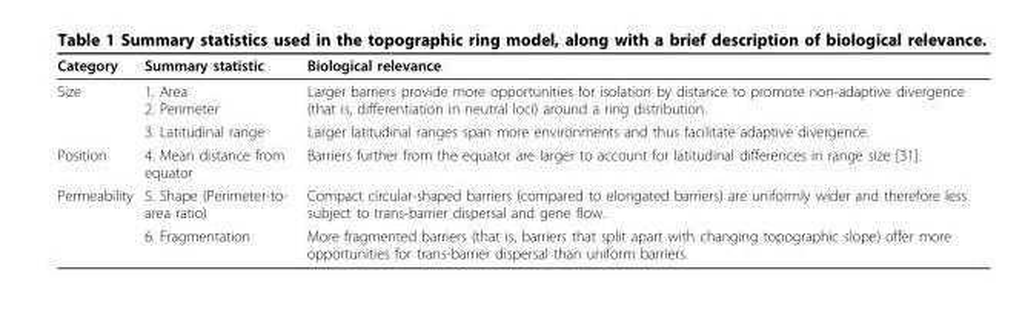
<table><thead><tr><td>Category</td><td>Summary statistic</td><td>Biological relevance</td></tr></thead><tbody><tr><td rowspan="2">Size</td><td>1. Area 2. Perimeter</td><td>Larger barriers provide more opportunities for isolation by distance to promote non-adaptive divergence (that is, differentiation in neutral loci) around a ring distribution.</td></tr><tr><td>3. Latitudinal range</td><td>Larger latitudinal ranges span more environments and thus facilitate adaptive divergence.</td></tr><tr><td>Position</td><td>4. Mean distance from equator</td><td>Barriers further from the equator are larger to account for latitudinal differences in range size [31].</td></tr><tr><td rowspan="2">Permeability</td><td>5. Shape (Perimeter-to- area ratio)</td><td>Compact circular-shaped barriers (compared to elongated barriers) are uniformly wider and therefore less subject to trans-barrier dispersal and gene flow.</td></tr><tr><td>6. Fragmentation</td><td>More fragmented barriers (that is, barriers that split apart with changing topographic slope) offer more opportunities for trans-barrier dispersal than uniform barriers.</td></tr></tbody></table>